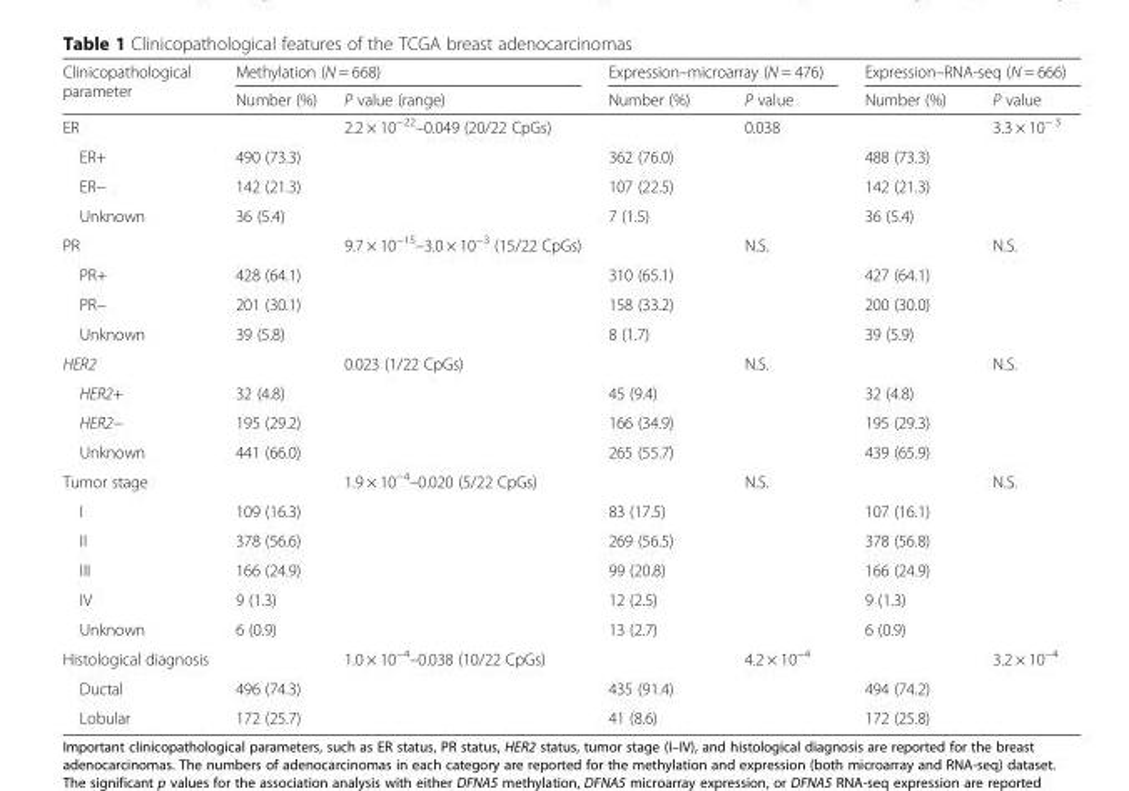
<table><thead><tr><td rowspan="2">Clinicopathological parameter</td><td colspan="2">Methylation (N = 668)</td><td colspan="2">Expression–microarray (N = 476)</td><td colspan="2">Expression–RNA-seq (N = 666)</td></tr><tr><td>Number (%)</td><td>P value (range)</td><td>Number (%)</td><td>P value</td><td>Number (%)</td><td>P value</td></tr></thead><tbody><tr><td>ER</td><td></td><td>2.2 × 10<sup>−22</sup>–0.049 (20/22 CpGs)</td><td></td><td>0.038</td><td></td><td>3.3 × 10<sup>− 3</sup></td></tr><tr><td>ER+</td><td>490 (73.3)</td><td></td><td>362 (76.0)</td><td></td><td>488 (73.3)</td><td></td></tr><tr><td>ER−</td><td>142 (21.3)</td><td></td><td>107 (22.5)</td><td></td><td>142 (21.3)</td><td></td></tr><tr><td>Unknown</td><td>36 (5.4)</td><td></td><td>7 (1.5)</td><td></td><td>36 (5.4)</td><td></td></tr><tr><td>PR</td><td></td><td>9.7 × 10<sup>−15</sup>–3.0 × 10<sup>−3</sup> (15/22 CpGs)</td><td></td><td>N.S.</td><td></td><td>N.S.</td></tr><tr><td>PR+</td><td>428 (64.1)</td><td></td><td>310 (65.1)</td><td></td><td>427 (64.1)</td><td></td></tr><tr><td>PR−</td><td>201 (30.1)</td><td></td><td>158 (33.2)</td><td></td><td>200 (30.0)</td><td></td></tr><tr><td>Unknown</td><td>39 (5.8)</td><td></td><td>8 (1.7)</td><td></td><td>39 (5.9)</td><td></td></tr><tr><td>HER2</td><td></td><td>0.023 (1/22 CpGs)</td><td></td><td>N.S.</td><td></td><td>N.S.</td></tr><tr><td>HER2+</td><td>32 (4.8)</td><td></td><td>45 (9.4)</td><td></td><td>32 (4.8)</td><td></td></tr><tr><td>HER2−</td><td>195 (29.2)</td><td></td><td>166 (34.9)</td><td></td><td>195 (29.3)</td><td></td></tr><tr><td>Unknown</td><td>441 (66.0)</td><td></td><td>265 (55.7)</td><td></td><td>439 (65.9)</td><td></td></tr><tr><td>Tumor stage</td><td></td><td>1.9 × 10<sup>−4</sup>–0.020 (5/22 CpGs)</td><td></td><td>N.S.</td><td></td><td>N.S.</td></tr><tr><td>I</td><td>109 (16.3)</td><td></td><td>83 (17.5)</td><td></td><td>107 (16.1)</td><td></td></tr><tr><td>II</td><td>378 (56.6)</td><td></td><td>269 (56.5)</td><td></td><td>378 (56.8)</td><td></td></tr><tr><td>III</td><td>166 (24.9)</td><td></td><td>99 (20.8)</td><td></td><td>166 (24.9)</td><td></td></tr><tr><td>IV</td><td>9 (1.3)</td><td></td><td>12 (2.5)</td><td></td><td>9 (1.3)</td><td></td></tr><tr><td>Unknown</td><td>6 (0.9)</td><td></td><td>13 (2.7)</td><td></td><td>6 (0.9)</td><td></td></tr><tr><td>Histological diagnosis</td><td></td><td>1.0 × 10<sup>−4</sup>–0.038 (10/22 CpGs)</td><td></td><td>4.2 × 10<sup>−4</sup></td><td></td><td>3.2 × 10<sup>−4</sup></td></tr><tr><td>Ductal</td><td>496 (74.3)</td><td></td><td>435 (91.4)</td><td></td><td>494 (74.2)</td><td></td></tr><tr><td>Lobular</td><td>172 (25.7)</td><td></td><td>41 (8.6)</td><td></td><td>172 (25.8)</td><td></td></tr></tbody></table>